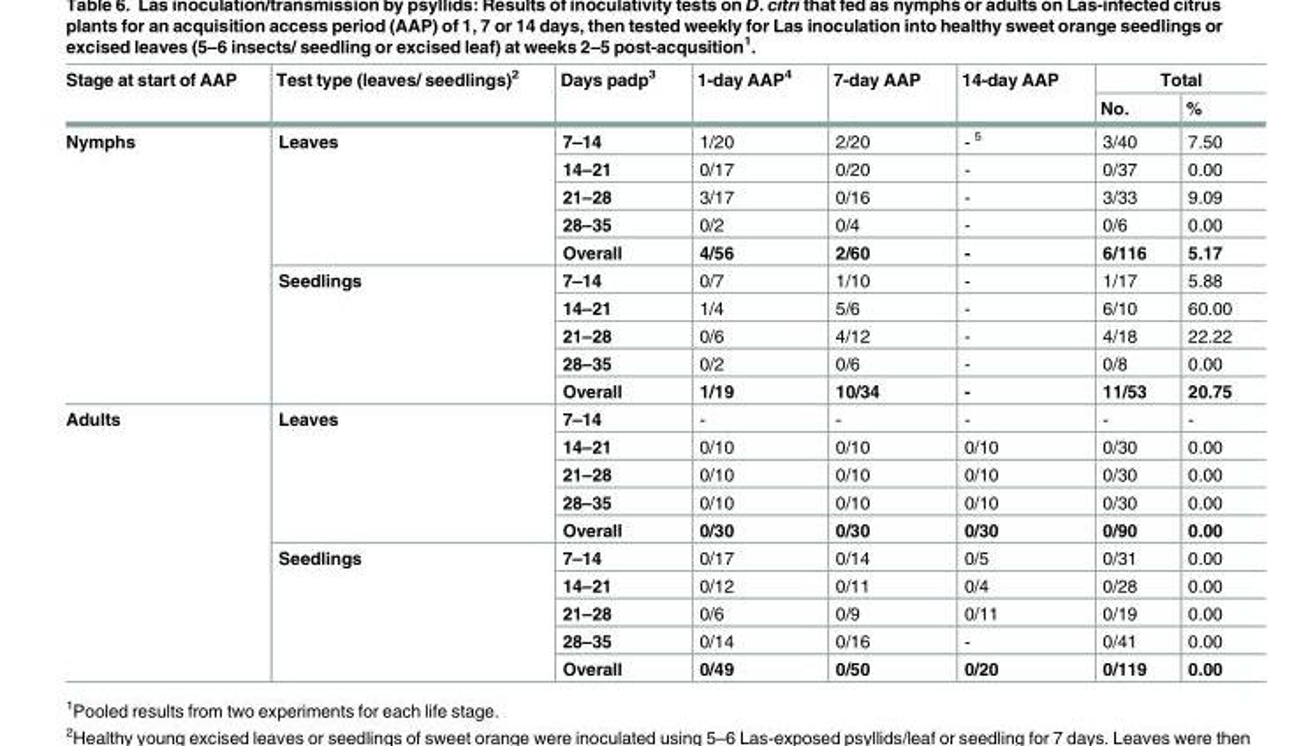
<table><thead><tr><td rowspan="2">Stage at start of AAP</td><td rowspan="2">Test type (leaves/ seedlings)<sup>2</sup></td><td rowspan="2">Days padp<sup>3</sup></td><td rowspan="2">1-day AAP<sup>4</sup></td><td rowspan="2">7-day AAP</td><td rowspan="2">14-day AAP</td><td colspan="2">Total</td></tr><tr><td>No.</td><td>%</td></tr></thead><tbody><tr><td rowspan="10">Nymphs</td><td rowspan="5">Leaves</td><td>7–14</td><td>1/20</td><td>2/20</td><td>- <sup>5</sup></td><td>3/40</td><td>7.50</td></tr><tr><td>14–21</td><td>0/17</td><td>0/20</td><td>-</td><td>0/37</td><td>0.00</td></tr><tr><td>21–28</td><td>3/17</td><td>0/16</td><td>-</td><td>3/33</td><td>9.09</td></tr><tr><td>28–35</td><td>0/2</td><td>0/4</td><td>-</td><td>0/6</td><td>0.00</td></tr><tr><td>Overall</td><td>4/56</td><td>2/60</td><td>-</td><td>6/116</td><td>5.17</td></tr><tr><td rowspan="5">Seedlings</td><td>7–14</td><td>0/7</td><td>1/10</td><td>-</td><td>1/17</td><td>5.88</td></tr><tr><td>14–21</td><td>1/4</td><td>5/6</td><td>-</td><td>6/10</td><td>60.00</td></tr><tr><td>21–28</td><td>0/6</td><td>4/12</td><td>-</td><td>4/18</td><td>22.22</td></tr><tr><td>28–35</td><td>0/2</td><td>0/6</td><td>-</td><td>0/8</td><td>0.00</td></tr><tr><td>Overall</td><td>1/19</td><td>10/34</td><td>-</td><td>11/53</td><td>20.75</td></tr><tr><td rowspan="10">Adults</td><td rowspan="5">Leaves</td><td>7–14</td><td>-</td><td>-</td><td>-</td><td>-</td><td>-</td></tr><tr><td>14–21</td><td>0/10</td><td>0/10</td><td>0/10</td><td>0/30</td><td>0.00</td></tr><tr><td>21–28</td><td>0/10</td><td>0/10</td><td>0/10</td><td>0/30</td><td>0.00</td></tr><tr><td>28–35</td><td>0/10</td><td>0/10</td><td>0/10</td><td>0/30</td><td>0.00</td></tr><tr><td>Overall</td><td>0/30</td><td>0/30</td><td>0/30</td><td>0/90</td><td>0.00</td></tr><tr><td rowspan="5">Seedlings</td><td>7–14</td><td>0/17</td><td>0/14</td><td>0/5</td><td>0/31</td><td>0.00</td></tr><tr><td>14–21</td><td>0/12</td><td>0/11</td><td>0/4</td><td>0/28</td><td>0.00</td></tr><tr><td>21–28</td><td>0/6</td><td>0/9</td><td>0/11</td><td>0/19</td><td>0.00</td></tr><tr><td>28–35</td><td>0/14</td><td>0/16</td><td>-</td><td>0/41</td><td>0.00</td></tr><tr><td>Overall</td><td>0/49</td><td>0/50</td><td>0/20</td><td>0/119</td><td>0.00</td></tr></tbody></table>